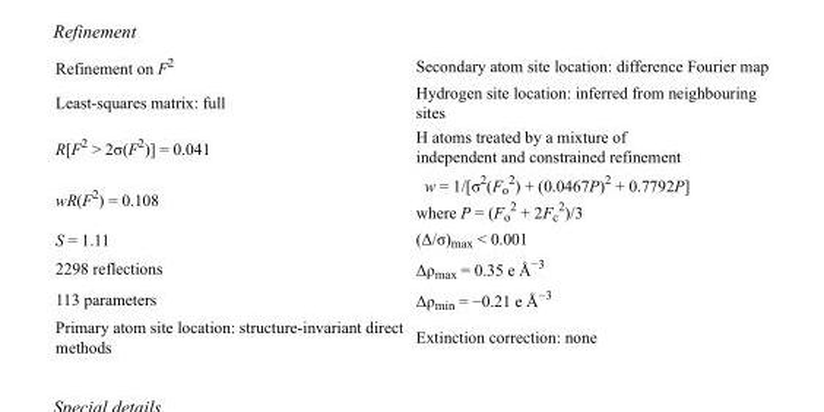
<table><tbody><tr><td>Refinement on F<sup>2</sup></td><td>Secondary atom site location: difference Fourier map</td></tr><tr><td>Least-squares matrix: full</td><td>Hydrogen site location: inferred from neighbouring sites</td></tr><tr><td>R[F<sup>2</sup> &gt; 2σ(F<sup>2</sup>)] = 0.041</td><td>H atoms treated by a mixture of independent and constrained refinement</td></tr><tr><td>wR(F<sup>2</sup>) = 0.108</td><td>w = 1/[σ<sup>2</sup>(F<sub>o</sub> <sup>2</sup>) + (0.0467P)<sup>2</sup> + 0.7792P] where P = (F<sub>o</sub> <sup>2</sup> + 2F<sub>c</sub> <sup>2</sup>)/3</td></tr><tr><td>S = 1.11</td><td>(Δ/σ)<sub>max</sub> &lt; 0.001</td></tr><tr><td>2298 reflections</td><td>Δρ<sub>max</sub> = 0.35 e Å<sup>−3</sup></td></tr><tr><td>113 parameters</td><td>Δρ<sub>min</sub> = −0.21 e Å<sup>−3</sup></td></tr><tr><td>Primary atom site location: structure-invariant direct methods</td><td>Extinction correction: none</td></tr></tbody></table>